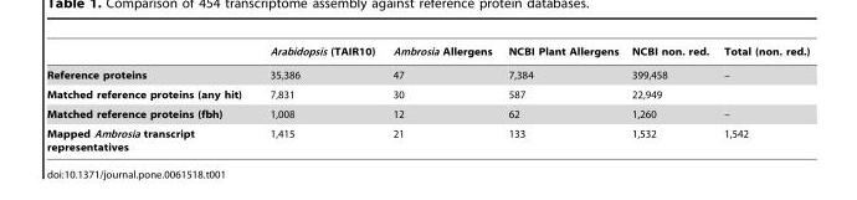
<table><thead><tr><td></td><td>Arabidopsis (TAIR10)</td><td>Ambrosia Allergens</td><td>NCBI Plant Allergens</td><td>NCBI non. red.</td><td>Total (non. red.)</td></tr></thead><tbody><tr><td>Reference proteins</td><td>35,386</td><td>47</td><td>7,384</td><td>399,458</td><td>–</td></tr><tr><td>Matched reference proteins (any hit)</td><td>7,831</td><td>30</td><td>587</td><td>22,949</td><td></td></tr><tr><td>Matched reference proteins (fbh)</td><td>1,008</td><td>12</td><td>62</td><td>1,260</td><td>–</td></tr><tr><td>Mapped Ambrosia transcript representatives</td><td>1,415</td><td>21</td><td>133</td><td>1,532</td><td>1,542</td></tr></tbody></table>